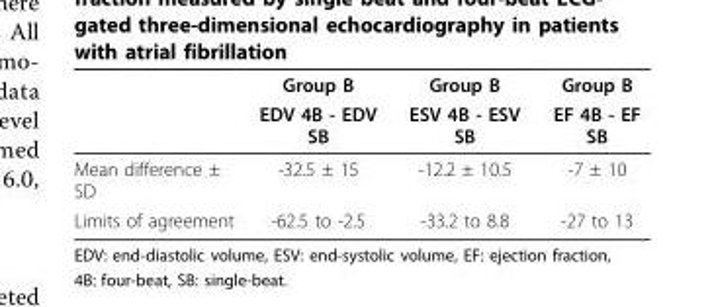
<table><thead><tr><td rowspan="2"></td><td rowspan="2">Group B EDV 4B - EDV SB</td><td rowspan="2">Group B ESV 4B - ESV SB</td><td rowspan="2">Group B EF 4B - EF SB</td></tr><tr></tr></thead><tbody><tr><td>Mean difference ± SD</td><td>-32.5 ± 15</td><td>-12.2 ± 10.5</td><td>-7 ± 10</td></tr><tr><td>Limits of agreement</td><td>-62.5 to -2.5</td><td>-33.2 to 8.8</td><td>-27 to 13</td></tr></tbody></table>